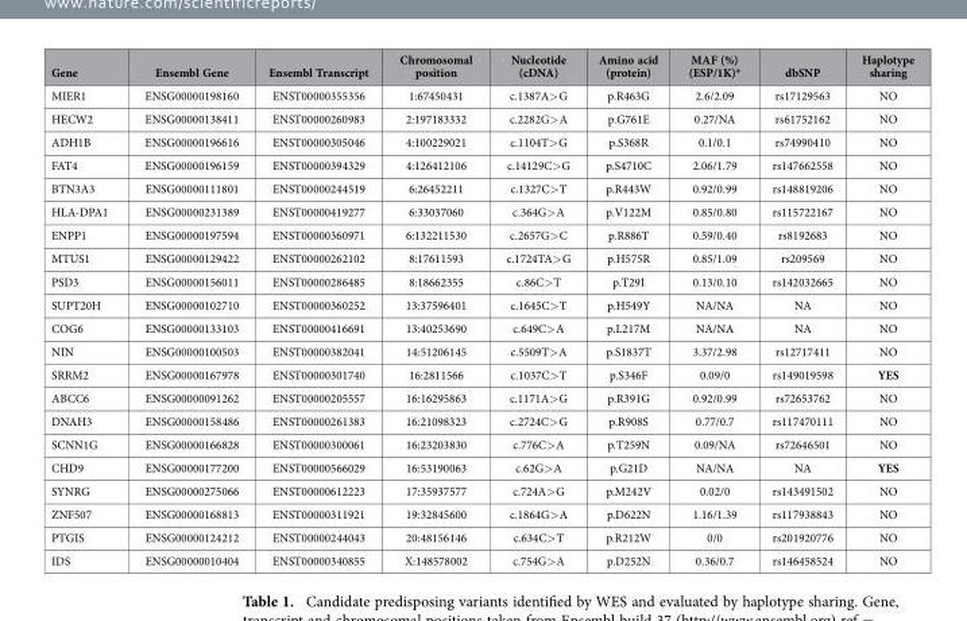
<table><thead><tr><td>Gene</td><td>Ensembl Gene</td><td>Ensembl Transcript</td><td>Chromosomal position</td><td>Nucleotide (cDNA)</td><td>Amino acid (protein)</td><td>MAF (%) (ESP/1K)*</td><td>dbSNP</td><td>Haplotype sharing</td></tr></thead><tbody><tr><td>MIER1</td><td>ENSG00000198160</td><td>ENST00000355356</td><td>1:67450431</td><td>c.1387A&gt; G</td><td>p.R463G</td><td>2.6/2.09</td><td>rs17129563</td><td>NO</td></tr><tr><td>HECW2</td><td>ENSG00000138411</td><td>ENST00000260983</td><td>2:197183332</td><td>c.2282G&gt; A</td><td>p.G761E</td><td>0.27/NA</td><td>rs61752162</td><td>NO</td></tr><tr><td>ADH1B</td><td>ENSG00000196616</td><td>ENST00000305046</td><td>4:100229021</td><td>c.1104T&gt; G</td><td>p.S368R</td><td>0.1/0.1</td><td>rs74990410</td><td>NO</td></tr><tr><td>FAT4</td><td>ENSG00000196159</td><td>ENST00000394329</td><td>4:126412106</td><td>c.14129C&gt; G</td><td>p.S4710C</td><td>2.06/1.79</td><td>rs147662558</td><td>NO</td></tr><tr><td>BTN3A3</td><td>ENSG00000111801</td><td>ENST00000244519</td><td>6:26452211</td><td>c.1327C&gt; T</td><td>p.R443W</td><td>0.92/0.99</td><td>rs148819206</td><td>NO</td></tr><tr><td>HLA-DPA1</td><td>ENSG00000231389</td><td>ENST00000419277</td><td>6:33037060</td><td>c.364G&gt; A</td><td>p.V122M</td><td>0.85/0.80</td><td>rs115722167</td><td>NO</td></tr><tr><td>ENPP1</td><td>ENSG00000197594</td><td>ENST00000360971</td><td>6:132211530</td><td>c.2657G&gt; C</td><td>p.R886T</td><td>0.59/0.40</td><td>rs8192683</td><td>NO</td></tr><tr><td>MTUS1</td><td>ENSG00000129422</td><td>ENST00000262102</td><td>8:17611593</td><td>c.1724TA&gt; G</td><td>p.H575R</td><td>0.85/1.09</td><td>rs209569</td><td>NO</td></tr><tr><td>PSD3</td><td>ENSG00000156011</td><td>ENST00000286485</td><td>8:18662355</td><td>c.86C&gt; T</td><td>p.T29I</td><td>0.13/0.10</td><td>rs142032665</td><td>NO</td></tr><tr><td>SUPT20H</td><td>ENSG00000102710</td><td>ENST00000360252</td><td>13:37596401</td><td>c.1645C&gt; T</td><td>p.H549Y</td><td>NA/NA</td><td>NA</td><td>NO</td></tr><tr><td>COG6</td><td>ENSG00000133103</td><td>ENST00000416691</td><td>13:40253690</td><td>c.649C&gt; A</td><td>p.L217M</td><td>NA/NA</td><td>NA</td><td>NO</td></tr><tr><td>NIN</td><td>ENSG00000100503</td><td>ENST00000382041</td><td>14:51206145</td><td>c.5509T&gt; A</td><td>p.S1837T</td><td>3.37/2.98</td><td>rs12717411</td><td>NO</td></tr><tr><td>SRRM2</td><td>ENSG00000167978</td><td>ENST00000301740</td><td>16:2811566</td><td>c.1037C&gt; T</td><td>p.S346F</td><td>0.09/0</td><td>rs149019598</td><td>YES</td></tr><tr><td>ABCC6</td><td>ENSG00000091262</td><td>ENST00000205557</td><td>16:16295863</td><td>c.1171A&gt; G</td><td>p.R391G</td><td>0.92/0.99</td><td>rs72653762</td><td>NO</td></tr><tr><td>DNAH3</td><td>ENSG00000158486</td><td>ENST00000261383</td><td>16:21098323</td><td>c.2724C&gt; G</td><td>p.R908S</td><td>0.77/0.7</td><td>rs117470111</td><td>NO</td></tr><tr><td>SCNN1G</td><td>ENSG00000166828</td><td>ENST00000300061</td><td>16:23203830</td><td>c.776C&gt; A</td><td>p.T259N</td><td>0.09/NA</td><td>rs72646501</td><td>NO</td></tr><tr><td>CHD9</td><td>ENSG00000177200</td><td>ENST00000566029</td><td>16:53190063</td><td>c.62G&gt; A</td><td>p.G21D</td><td>NA/NA</td><td>NA</td><td>YES</td></tr><tr><td>SYNRG</td><td>ENSG00000275066</td><td>ENST00000612223</td><td>17:35937577</td><td>c.724A&gt; G</td><td>p.M242V</td><td>0.02/0</td><td>rs143491502</td><td>NO</td></tr><tr><td>ZNF507</td><td>ENSG00000168813</td><td>ENST00000311921</td><td>19:32845600</td><td>c.1864G&gt; A</td><td>p.D622N</td><td>1.16/1.39</td><td>rs117938843</td><td>NO</td></tr><tr><td>PTGIS</td><td>ENSG00000124212</td><td>ENST00000244043</td><td>20:48156146</td><td>c.634C&gt; T</td><td>p.R212W</td><td>0/0</td><td>rs201920776</td><td>NO</td></tr><tr><td>IDS</td><td>ENSG00000010404</td><td>ENST00000340855</td><td>X:148578002</td><td>c.754G&gt; A</td><td>p.D252N</td><td>0.36/0.7</td><td>rs146458524</td><td>NO</td></tr></tbody></table>